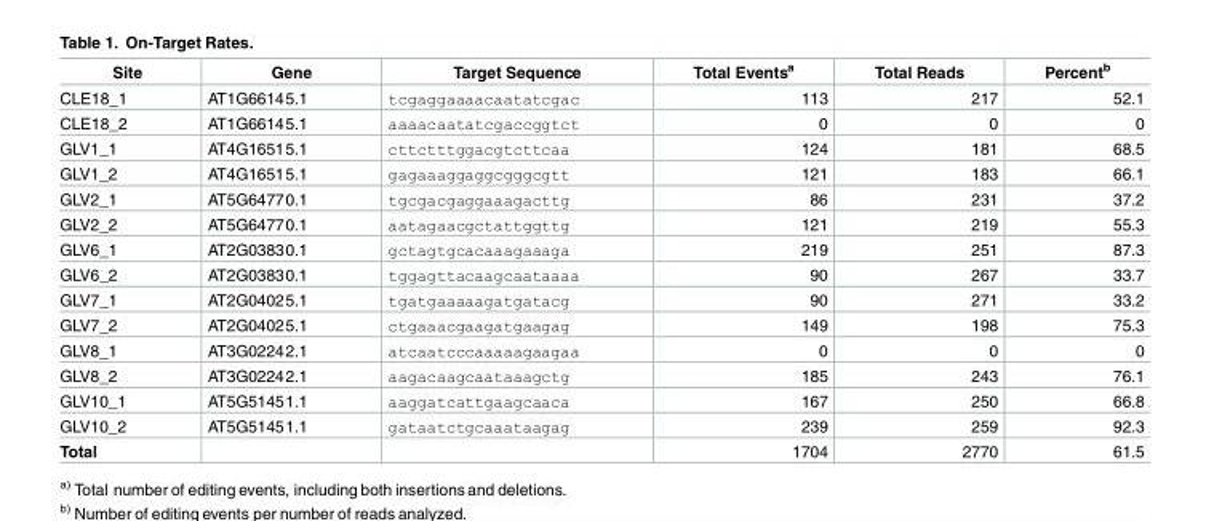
<table><thead><tr><td>Site</td><td>Gene</td><td>Target Sequence</td><td>Total Events<sup>a</sup></td><td>Total Reads</td><td>Percent<sup>b</sup></td></tr></thead><tbody><tr><td>CLE18_1</td><td>AT1G66145.1</td><td>tcgaggaaaacaatatcgac</td><td>113</td><td>217</td><td>52.1</td></tr><tr><td>CLE18_2</td><td>AT1G66145.1</td><td>aaaacaatatcgaccggtct</td><td>0</td><td>0</td><td>0</td></tr><tr><td>GLV1_1</td><td>AT4G16515.1</td><td>cttctttggacgtcttcaa</td><td>124</td><td>181</td><td>68.5</td></tr><tr><td>GLV1_2</td><td>AT4G16515.1</td><td>gagaaaggaggcgggcgtt</td><td>121</td><td>183</td><td>66.1</td></tr><tr><td>GLV2_1</td><td>AT5G64770.1</td><td>tgcgacgaggaaagacttg</td><td>86</td><td>231</td><td>37.2</td></tr><tr><td>GLV2_2</td><td>AT5G64770.1</td><td>aatagaacgctattggttg</td><td>121</td><td>219</td><td>55.3</td></tr><tr><td>GLV6_1</td><td>AT2G03830.1</td><td>gctagtgcacaaagaaaga</td><td>219</td><td>251</td><td>87.3</td></tr><tr><td>GLV6_2</td><td>AT2G03830.1</td><td>tggagttacaagcaataaaa</td><td>90</td><td>267</td><td>33.7</td></tr><tr><td>GLV7_1</td><td>AT2G04025.1</td><td>tgatgaaaaagatgatacg</td><td>90</td><td>271</td><td>33.2</td></tr><tr><td>GLV7_2</td><td>AT2G04025.1</td><td>ctgaaacgaagatgaagag</td><td>149</td><td>198</td><td>75.3</td></tr><tr><td>GLV8_1</td><td>AT3G02242.1</td><td>atcaatcccaaaaagaagaa</td><td>0</td><td>0</td><td>0</td></tr><tr><td>GLV8_2</td><td>AT3G02242.1</td><td>aagacaagcaataaagctg</td><td>185</td><td>243</td><td>76.1</td></tr><tr><td>GLV10_1</td><td>AT5G51451.1</td><td>aaggatcattgaagcaaca</td><td>167</td><td>250</td><td>66.8</td></tr><tr><td>GLV10_2</td><td>AT5G51451.1</td><td>gataatctgcaaataagag</td><td>239</td><td>259</td><td>92.3</td></tr><tr><td>Total</td><td></td><td></td><td>1704</td><td>2770</td><td>61.5</td></tr></tbody></table>